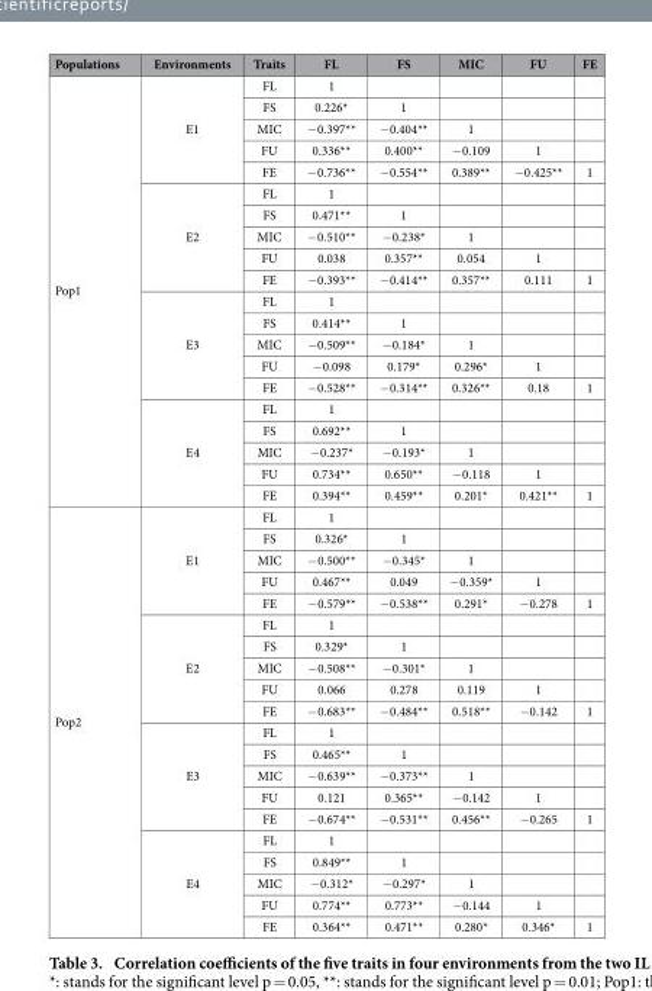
<table><thead><tr><td>Populations</td><td>Environments</td><td>Traits</td><td>FL</td><td>FS</td><td>MIC</td><td>FU</td><td>FE</td></tr></thead><tbody><tr><td rowspan="20">Pop1</td><td rowspan="5">E1</td><td>FL</td><td>1</td><td></td><td></td><td></td><td></td></tr><tr><td>FS</td><td>0.226*</td><td>1</td><td></td><td></td><td></td></tr><tr><td>MIC</td><td>− 0.397**</td><td>− 0.404**</td><td>1</td><td></td><td></td></tr><tr><td>FU</td><td>0.336**</td><td>0.400**</td><td>− 0.109</td><td>1</td><td></td></tr><tr><td>FE</td><td>− 0.736**</td><td>− 0.554**</td><td>0.389**</td><td>− 0.425**</td><td>1</td></tr><tr><td rowspan="5">E2</td><td>FL</td><td>1</td><td></td><td></td><td></td><td></td></tr><tr><td>FS</td><td>0.471**</td><td>1</td><td></td><td></td><td></td></tr><tr><td>MIC</td><td>− 0.510**</td><td>− 0.238*</td><td>1</td><td></td><td></td></tr><tr><td>FU</td><td>0.038</td><td>0.357**</td><td>0.054</td><td>1</td><td></td></tr><tr><td>FE</td><td>− 0.393**</td><td>− 0.414**</td><td>0.357**</td><td>0.111</td><td>1</td></tr><tr><td rowspan="5">E3</td><td>FL</td><td>1</td><td></td><td></td><td></td><td></td></tr><tr><td>FS</td><td>0.414**</td><td>1</td><td></td><td></td><td></td></tr><tr><td>MIC</td><td>− 0.509**</td><td>− 0.184*</td><td>1</td><td></td><td></td></tr><tr><td>FU</td><td>− 0.098</td><td>0.179*</td><td>0.296*</td><td>1</td><td></td></tr><tr><td>FE</td><td>− 0.528**</td><td>− 0.314**</td><td>0.326**</td><td>0.18</td><td>1</td></tr><tr><td rowspan="5">E4</td><td>FL</td><td>1</td><td></td><td></td><td></td><td></td></tr><tr><td>FS</td><td>0.692**</td><td>1</td><td></td><td></td><td></td></tr><tr><td>MIC</td><td>− 0.237*</td><td>− 0.193*</td><td>1</td><td></td><td></td></tr><tr><td>FU</td><td>0.734**</td><td>0.650**</td><td>− 0.118</td><td>1</td><td></td></tr><tr><td>FE</td><td>0.394**</td><td>0.459**</td><td>0.201*</td><td>0.421**</td><td>1</td></tr><tr><td rowspan="20">Pop2</td><td rowspan="5">E1</td><td>FL</td><td>1</td><td></td><td></td><td></td><td></td></tr><tr><td>FS</td><td>0.326*</td><td>1</td><td></td><td></td><td></td></tr><tr><td>MIC</td><td>− 0.500**</td><td>− 0.345*</td><td>1</td><td></td><td></td></tr><tr><td>FU</td><td>0.467**</td><td>0.049</td><td>− 0.359*</td><td>1</td><td></td></tr><tr><td>FE</td><td>− 0.579**</td><td>− 0.538**</td><td>0.291*</td><td>− 0.278</td><td>1</td></tr><tr><td rowspan="5">E2</td><td>FL</td><td>1</td><td></td><td></td><td></td><td></td></tr><tr><td>FS</td><td>0.329*</td><td>1</td><td></td><td></td><td></td></tr><tr><td>MIC</td><td>− 0.508**</td><td>− 0.301*</td><td>1</td><td></td><td></td></tr><tr><td>FU</td><td>0.066</td><td>0.278</td><td>0.119</td><td>1</td><td></td></tr><tr><td>FE</td><td>− 0.683**</td><td>− 0.484**</td><td>0.518**</td><td>− 0.142</td><td>1</td></tr><tr><td rowspan="5">E3</td><td>FL</td><td>1</td><td></td><td></td><td></td><td></td></tr><tr><td>FS</td><td>0.465**</td><td>1</td><td></td><td></td><td></td></tr><tr><td>MIC</td><td>− 0.639**</td><td>− 0.373**</td><td>1</td><td></td><td></td></tr><tr><td>FU</td><td>0.121</td><td>0.365**</td><td>− 0.142</td><td>1</td><td></td></tr><tr><td>FE</td><td>− 0.674**</td><td>− 0.531**</td><td>0.456**</td><td>− 0.265</td><td>1</td></tr><tr><td rowspan="5">E4</td><td>FL</td><td>1</td><td></td><td></td><td></td><td></td></tr><tr><td>FS</td><td>0.849**</td><td>1</td><td></td><td></td><td></td></tr><tr><td>MIC</td><td>− 0.312*</td><td>− 0.297*</td><td>1</td><td></td><td></td></tr><tr><td>FU</td><td>0.774**</td><td>0.773**</td><td>− 0.144</td><td>1</td><td></td></tr><tr><td>FE</td><td>0.364**</td><td>0.471**</td><td>0.280*</td><td>0.346*</td><td>1</td></tr></tbody></table>